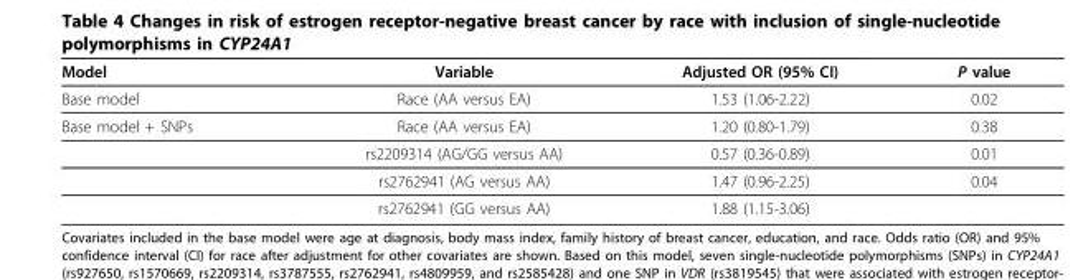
<table><thead><tr><td>Model</td><td>Variable</td><td>Adjusted OR (95% CI)</td><td>P value</td></tr></thead><tbody><tr><td>Base model</td><td>Race (AA versus EA)</td><td>1.53 (1.06-2.22)</td><td>0.02</td></tr><tr><td rowspan="4">Base model + SNPs</td><td>Race (AA versus EA)</td><td>1.20 (0.80-1.79)</td><td>0.38</td></tr><tr><td>rs2209314 (AG/GG versus AA)</td><td>0.57 (0.36-0.89)</td><td>0.01</td></tr><tr><td>rs2762941 (AG versus AA)</td><td>1.47 (0.96-2.25)</td><td>0.04</td></tr><tr><td>rs2762941 (GG versus AA)</td><td>1.88 (1.15-3.06)</td><td></td></tr></tbody></table>